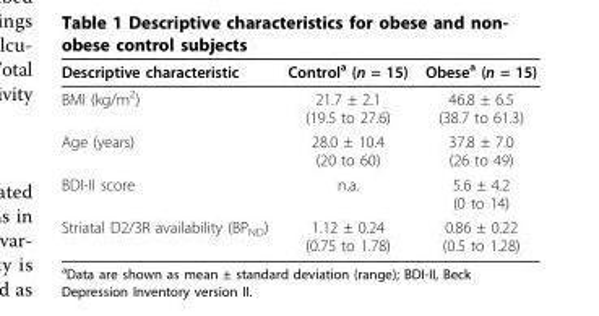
<table><thead><tr><td>Descriptive characteristic</td><td>Control<sup>a</sup> (n = 15)</td><td>Obese<sup>a</sup> (n = 15)</td></tr></thead><tbody><tr><td>BMI (kg/m<sup>2</sup>)</td><td>21.7 ± 2.1 (19.5 to 27.6)</td><td>46.8 ± 6.5 (38.7 to 61.3)</td></tr><tr><td>Age (years)</td><td>28.0 ± 10.4 (20 to 60)</td><td>37.8 ± 7.0 (26 to 49)</td></tr><tr><td>BDI-II score</td><td>n.a.</td><td>5.6 ± 4.2 (0 to 14)</td></tr><tr><td>Striatal D2/3R availability (BP<sub>ND</sub>)</td><td>1.12 ± 0.24 (0.75 to 1.78)</td><td>0.86 ± 0.22 (0.5 to 1.28)</td></tr></tbody></table>